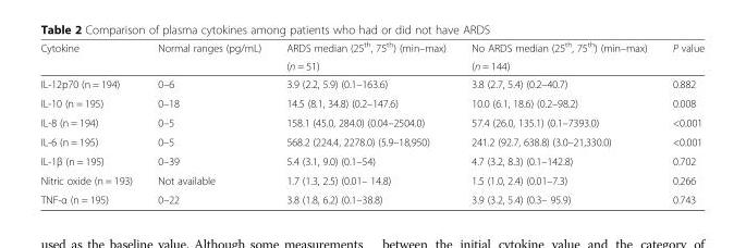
<table><thead><tr><td rowspan="2">Cytokine</td><td rowspan="2">Normal ranges (pg/mL)</td><td rowspan="2">ARDS median (25<sup>th</sup>, 75<sup>th</sup>) (min–max) (n = 51)</td><td rowspan="2">No ARDS median (25<sup>th</sup>, 75<sup>th</sup>) (min–max) (n = 144)</td><td rowspan="2">P value</td></tr><tr></tr></thead><tbody><tr><td>IL-12p70 (n = 194)</td><td>0–6</td><td>3.9 (2.2, 5.9) (0.1–163.6)</td><td>3.8 (2.7, 5.4) (0.2–40.7)</td><td>0.882</td></tr><tr><td>IL-10 (n = 195)</td><td>0–18</td><td>14.5 (8.1, 34.8) (0.2–147.6)</td><td>10.0 (6.1, 18.6) (0.2–98.2)</td><td>0.008</td></tr><tr><td>IL-8 (n = 194)</td><td>0–5</td><td>158.1 (45.0, 284.0) (0.04–2504.0)</td><td>57.4 (26.0, 135.1) (0.1–7393.0)</td><td>&lt;0.001</td></tr><tr><td>IL-6 (n = 195)</td><td>0–5</td><td>568.2 (224.4, 2278.0) (5.9–18,950)</td><td>241.2 (92.7, 638.8) (3.0–21,330.0)</td><td>&lt;0.001</td></tr><tr><td>IL-1β (n = 195)</td><td>0–39</td><td>5.4 (3.1, 9.0) (0.1–54)</td><td>4.7 (3.2, 8.3) (0.1–142.8)</td><td>0.702</td></tr><tr><td>Nitric oxide (n = 193)</td><td>Not available</td><td>1.7 (1.3, 2.5) (0.01– 14.8)</td><td>1.5 (1.0, 2.4) (0.01–7.3)</td><td>0.266</td></tr><tr><td>TNF-α (n = 195)</td><td>0–22</td><td>3.8 (1.8, 6.2) (0.1–38.8)</td><td>3.9 (3.2, 5.4) (0.3– 95.9)</td><td>0.743</td></tr></tbody></table>